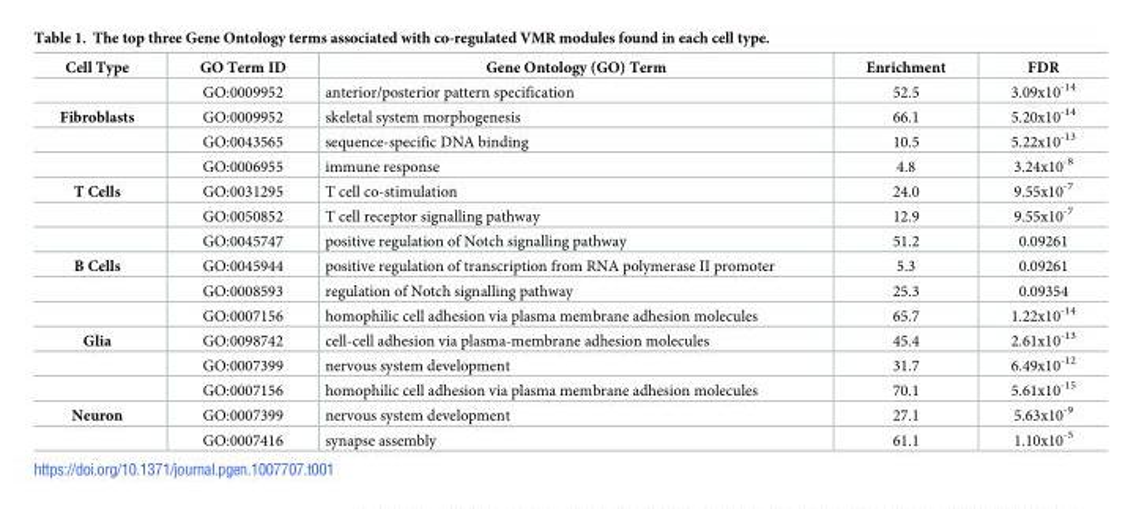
<table><thead><tr><td>Cell Type</td><td>GO Term ID</td><td>Gene Ontology (GO) Term</td><td>Enrichment</td><td>FDR</td></tr></thead><tbody><tr><td></td><td>GO:0009952</td><td>anterior/posterior pattern specification</td><td>52.5</td><td>3.09x10<sup>-14</sup></td></tr><tr><td rowspan="3">Fibroblasts</td><td>GO:0009952</td><td>skeletal system morphogenesis</td><td>66.1</td><td>5.20x10<sup>-14</sup></td></tr><tr><td>GO:0043565</td><td>sequence-specific DNA binding</td><td>10.5</td><td>5.22x10<sup>-13</sup></td></tr><tr><td>GO:0006955</td><td>immune response</td><td>4.8</td><td>3.24x10<sup>-8</sup></td></tr><tr><td rowspan="3">T Cells</td><td>GO:0031295</td><td>T cell co-stimulation</td><td>24.0</td><td>9.55x10<sup>-7</sup></td></tr><tr><td>GO:0050852</td><td>T cell receptor signalling pathway</td><td>12.9</td><td>9.55x10<sup>-7</sup></td></tr><tr><td>GO:0045747</td><td>positive regulation of Notch signalling pathway</td><td>51.2</td><td>0.09261</td></tr><tr><td rowspan="3">B Cells</td><td>GO:0045944</td><td>positive regulation of transcription from RNA polymerase II promoter</td><td>5.3</td><td>0.09261</td></tr><tr><td>GO:0008593</td><td>regulation of Notch signalling pathway</td><td>25.3</td><td>0.09354</td></tr><tr><td>GO:0007156</td><td>homophilic cell adhesion via plasma membrane adhesion molecules</td><td>65.7</td><td>1.22x10<sup>-14</sup></td></tr><tr><td rowspan="3">Glia</td><td>GO:0098742</td><td>cell-cell adhesion via plasma-membrane adhesion molecules</td><td>45.4</td><td>2.61x10<sup>-13</sup></td></tr><tr><td>GO:0007399</td><td>nervous system development</td><td>31.7</td><td>6.49x10<sup>-12</sup></td></tr><tr><td>GO:0007156</td><td>homophilic cell adhesion via plasma membrane adhesion molecules</td><td>70.1</td><td>5.61x10<sup>-15</sup></td></tr><tr><td rowspan="2">Neuron</td><td>GO:0007399</td><td>nervous system development</td><td>27.1</td><td>5.63x10<sup>-9</sup></td></tr><tr><td>GO:0007416</td><td>synapse assembly</td><td>61.1</td><td>1.10x10<sup>-5</sup></td></tr></tbody></table>